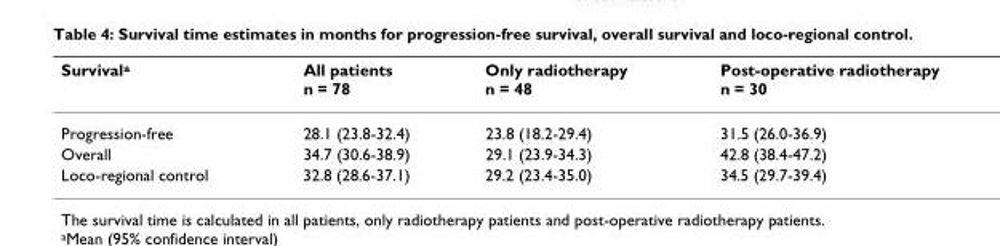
<table><thead><tr><td>Survival<sup>a</sup></td><td>All patients n = 78</td><td>Only radiotherapy n = 48</td><td>Post-operative radiotherapy n = 30</td></tr></thead><tbody><tr><td>Progression-free</td><td>28.1 (23.8-32.4)</td><td>23.8 (18.2-29.4)</td><td>31.5 (26.0-36.9)</td></tr><tr><td>Overall</td><td>34.7 (30.6-38.9)</td><td>29.1 (23.9-34.3)</td><td>42.8 (38.4-47.2)</td></tr><tr><td>Loco-regional control</td><td>32.8 (28.6-37.1)</td><td>29.2 (23.4-35.0)</td><td>34.5 (29.7-39.4)</td></tr></tbody></table>